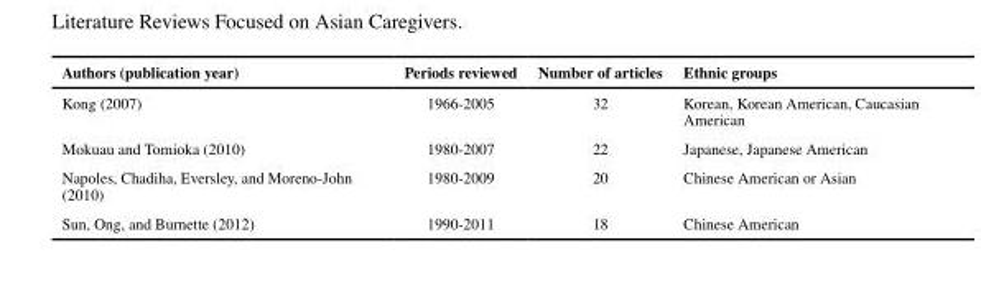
<table><thead><tr><td>Authors (publication year)</td><td>Periods reviewed</td><td>Number of articles</td><td>Ethnic groups</td></tr></thead><tbody><tr><td>Kong (2007)</td><td>1966-2005</td><td>32</td><td>Korean, Korean American, Caucasian American</td></tr><tr><td>Mokuau and Tomioka (2010)</td><td>1980-2007</td><td>22</td><td>Japanese, Japanese American</td></tr><tr><td>Napoles, Chadiha, Eversley, and Moreno-John (2010)</td><td>1980-2009</td><td>20</td><td>Chinese American or Asian</td></tr><tr><td>Sun, Ong, and Burnette (2012)</td><td>1990-2011</td><td>18</td><td>Chinese American</td></tr></tbody></table>